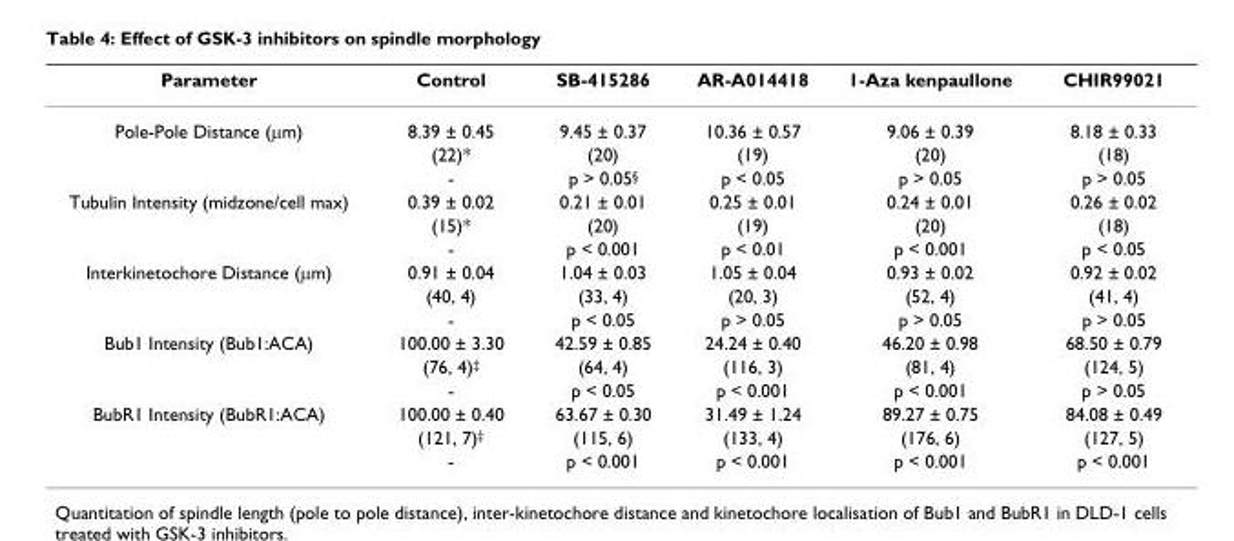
<table><thead><tr><td>Parameter</td><td>Control</td><td>SB-415286</td><td>AR-A014418</td><td>1-Aza kenpaullone</td><td>CHIR99021</td></tr></thead><tbody><tr><td rowspan="3">Pole-Pole Distance (µm)</td><td>8.39 ± 0.45</td><td>9.45 ± 0.37</td><td>10.36 ± 0.57</td><td>9.06 ± 0.39</td><td>8.18 ± 0.33</td></tr><tr><td>(22)*</td><td>(20)</td><td>(19)</td><td>(20)</td><td>(18)</td></tr><tr><td>-</td><td>p &gt; 0.05<sup>§</sup></td><td>p &lt; 0.05</td><td>p &gt; 0.05</td><td>p &gt; 0.05</td></tr><tr><td rowspan="3">Tubulin Intensity (midzone/cell max)</td><td>0.39 ± 0.02</td><td>0.21 ± 0.01</td><td>0.25 ± 0.01</td><td>0.24 ± 0.01</td><td>0.26 ± 0.02</td></tr><tr><td>(15)*</td><td>(20)</td><td>(19)</td><td>(20)</td><td>(18)</td></tr><tr><td>-</td><td>p &lt; 0.001</td><td>p &lt; 0.01</td><td>p &lt; 0.001</td><td>p &lt; 0.05</td></tr><tr><td rowspan="3">Interkinetochore Distance (µm)</td><td>0.91 ± 0.04</td><td>1.04 ± 0.03</td><td>1.05 ± 0.04</td><td>0.93 ± 0.02</td><td>0.92 ± 0.02</td></tr><tr><td>(40, 4)</td><td>(33, 4)</td><td>(20, 3)</td><td>(52, 4)</td><td>(41, 4)</td></tr><tr><td>-</td><td>p &lt; 0.05</td><td>p &gt; 0.05</td><td>p &gt; 0.05</td><td>p &gt; 0.05</td></tr><tr><td rowspan="3">Bub1 Intensity (Bub1:ACA)</td><td>100.00 ± 3.30</td><td>42.59 ± 0.85</td><td>24.24 ± 0.40</td><td>46.20 ± 0.98</td><td>68.50 ± 0.79</td></tr><tr><td>(76, 4)<sup>‡</sup></td><td>(64, 4)</td><td>(116, 3)</td><td>(81, 4)</td><td>(124, 5)</td></tr><tr><td>-</td><td>p &lt; 0.05</td><td>p &lt; 0.001</td><td>p &lt; 0.001</td><td>p &gt; 0.05</td></tr><tr><td rowspan="3">BubR1 Intensity (BubR1:ACA)</td><td>100.00 ± 0.40</td><td>63.67 ± 0.30</td><td>31.49 ± 1.24</td><td>89.27 ± 0.75</td><td>84.08 ± 0.49</td></tr><tr><td>(121, 7)<sup>‡</sup></td><td>(115, 6)</td><td>(133, 4)</td><td>(176, 6)</td><td>(127, 5)</td></tr><tr><td>-</td><td>p &lt; 0.001</td><td>p &lt; 0.001</td><td>p &lt; 0.001</td><td>p &lt; 0.001</td></tr></tbody></table>